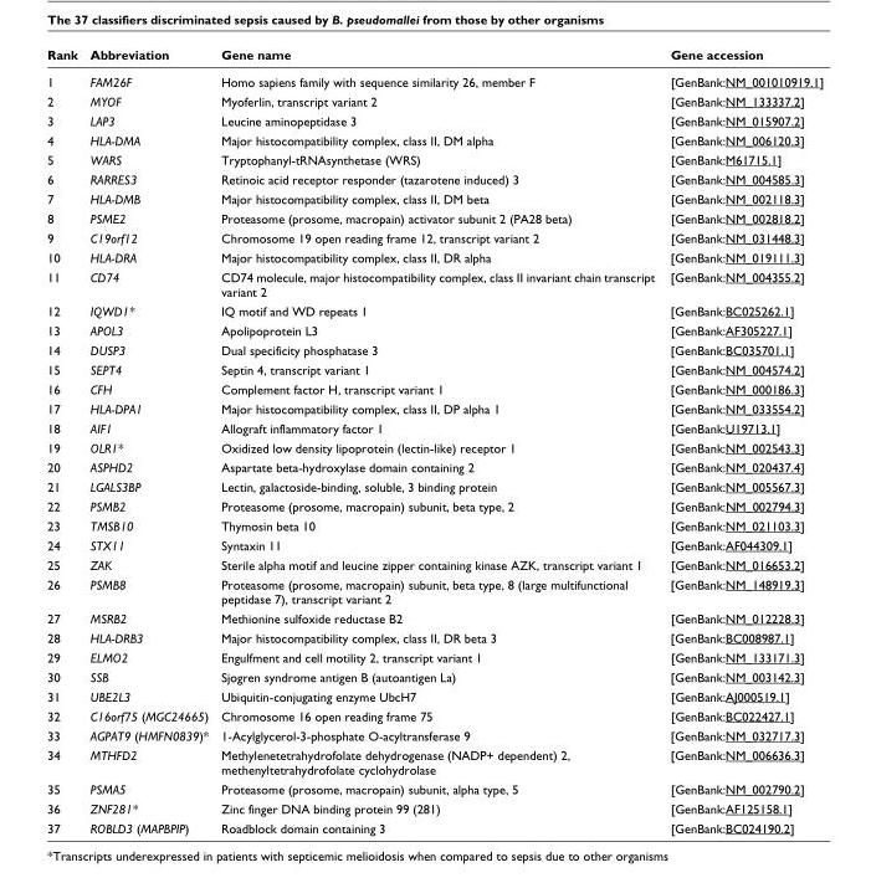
<table><thead><tr><td>Rank</td><td>Abbreviation</td><td>Gene name</td><td>Gene accession</td></tr></thead><tbody><tr><td>1</td><td>FAM26F</td><td>Homo sapiens family with sequence similarity 26, member F</td><td>[GenBank:NM_001010919.1]</td></tr><tr><td>2</td><td>MYOF</td><td>Myoferlin, transcript variant 2</td><td>[GenBank:NM_133337.2]</td></tr><tr><td>3</td><td>LAP3</td><td>Leucine aminopeptidase 3</td><td>[GenBank:NM_015907.2]</td></tr><tr><td>4</td><td>HLA-DMA</td><td>Major histocompatibility complex, class II, DM alpha</td><td>[GenBank:NM_006120.3]</td></tr><tr><td>5</td><td>WARS</td><td>Tryptophanyl-tRNAsynthetase (WRS)</td><td>[GenBank:M61715.1]</td></tr><tr><td>6</td><td>RARRES3</td><td>Retinoic acid receptor responder (tazarotene induced) 3</td><td>[GenBank:NM_004585.3]</td></tr><tr><td>7</td><td>HLA-DMB</td><td>Major histocompatibility complex, class II, DM beta</td><td>[GenBank:NM_002118.3]</td></tr><tr><td>8</td><td>PSME2</td><td>Proteasome (prosome, macropain) activator subunit 2 (PA28 beta)</td><td>[GenBank:NM_002818.2]</td></tr><tr><td>9</td><td>C19orf12</td><td>Chromosome 19 open reading frame 12, transcript variant 2</td><td>[GenBank:NM_031448.3]</td></tr><tr><td>10</td><td>HLA-DRA</td><td>Major histocompatibility complex, class II, DR alpha</td><td>[GenBank:NM_019111.3]</td></tr><tr><td>11</td><td>CD74</td><td>CD74 molecule, major histocompatibility complex, class II invariant chain transcript variant 2</td><td>[GenBank:NM_004355.2]</td></tr><tr><td>12</td><td>IQWD1*</td><td>IQ motif and WD repeats 1</td><td>[GenBank:BC025262.1]</td></tr><tr><td>13</td><td>APOL3</td><td>Apolipoprotein L3</td><td>[GenBank:AF305227.1]</td></tr><tr><td>14</td><td>DUSP3</td><td>Dual specificity phosphatase 3</td><td>[GenBank:BC035701.1]</td></tr><tr><td>15</td><td>SEPT4</td><td>Septin 4, transcript variant 1</td><td>[GenBank:NM_004574.2]</td></tr><tr><td>16</td><td>CFH</td><td>Complement factor H, transcript variant 1</td><td>[GenBank:NM_000186.3]</td></tr><tr><td>17</td><td>HLA-DPA1</td><td>Major histocompatibility complex, class II, DP alpha 1</td><td>[GenBank:NM_033554.2]</td></tr><tr><td>18</td><td>AIF1</td><td>Allograft inflammatory factor 1</td><td>[GenBank:U19713.1]</td></tr><tr><td>19</td><td>OLR1*</td><td>Oxidized low density lipoprotein (lectin-like) receptor 1</td><td>[GenBank:NM_002543.3]</td></tr><tr><td>20</td><td>ASPHD2</td><td>Aspartate beta-hydroxylase domain containing 2</td><td>[GenBank:NM_020437.4]</td></tr><tr><td>21</td><td>LGALS3BP</td><td>Lectin, galactoside-binding, soluble, 3 binding protein</td><td>[GenBank:NM_005567.3]</td></tr><tr><td>22</td><td>PSMB2</td><td>Proteasome (prosome, macropain) subunit, beta type, 2</td><td>[GenBank:NM_002794.3]</td></tr><tr><td>23</td><td>TMSB10</td><td>Thymosin beta 10</td><td>[GenBank:NM_021103.3]</td></tr><tr><td>24</td><td>STX11</td><td>Syntaxin 11</td><td>[GenBank:AF044309.1]</td></tr><tr><td>25</td><td>ZAK</td><td>Sterile alpha motif and leucine zipper containing kinase AZK, transcript variant 1</td><td>[GenBank:NM_016653.2]</td></tr><tr><td>26</td><td>PSMB8</td><td>Proteasome (prosome, macropain) subunit, beta type, 8 (large multifunctional peptidase 7), transcript variant 2</td><td>[GenBank:NM_148919.3]</td></tr><tr><td>27</td><td>MSRB2</td><td>Methionine sulfoxide reductase B2</td><td>[GenBank:NM_012228.3]</td></tr><tr><td>28</td><td>HLA-DRB3</td><td>Major histocompatibility complex, class II, DR beta 3</td><td>[GenBank:BC008987.1]</td></tr><tr><td>29</td><td>ELMO2</td><td>Engulfment and cell motility 2, transcript variant 1</td><td>[GenBank:NM_133171.3]</td></tr><tr><td>30</td><td>SSB</td><td>Sjogren syndrome antigen B (autoantigen La)</td><td>[GenBank:NM_003142.3]</td></tr><tr><td>31</td><td>UBE2L3</td><td>Ubiquitin-conjugating enzyme UbcH7</td><td>[GenBank:AJ000519.1]</td></tr><tr><td>32</td><td>C16orf75 (MGC24665)</td><td>Chromosome 16 open reading frame 75</td><td>[GenBank:BC022427.1]</td></tr><tr><td>33</td><td>AGPAT9 (HMFN0839)*</td><td>1-Acylglycerol-3-phosphate O-acyltransferase 9</td><td>[GenBank:NM_032717.3]</td></tr><tr><td>34</td><td>MTHFD2</td><td>Methylenetetrahydrofolate dehydrogenase (NADP+ dependent) 2, methenyltetrahydrofolate cyclohydrolase</td><td>[GenBank:NM_006636.3]</td></tr><tr><td>35</td><td>PSMA5</td><td>Proteasome (prosome, macropain) subunit, alpha type, 5</td><td>[GenBank:NM_002790.2]</td></tr><tr><td>36</td><td>ZNF281*</td><td>Zinc finger DNA binding protein 99 (281)</td><td>[GenBank:AF125158.1]</td></tr><tr><td>37</td><td>ROBLD3 (MAPBPIP)</td><td>Roadblock domain containing 3</td><td>[GenBank:BC024190.2]</td></tr></tbody></table>